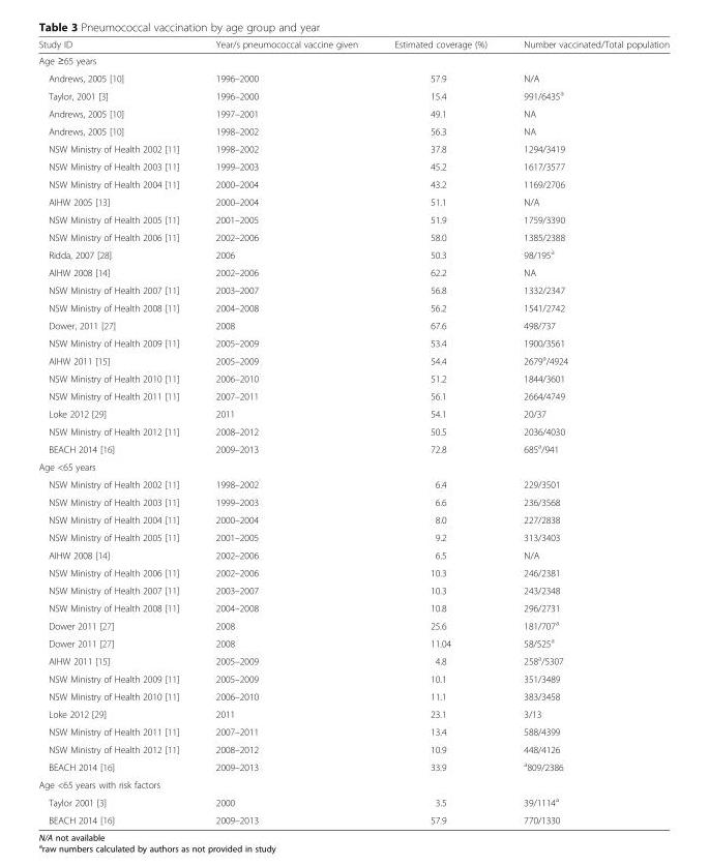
<table><thead><tr><td>Study ID</td><td>Year/s pneumococcal vaccine given</td><td>Estimated coverage (%)</td><td>Number vaccinated/Total population</td></tr></thead><tbody><tr><td colspan="4">Age ≥65 years</td></tr><tr><td>Andrews, 2005 [10]</td><td>1996–2000</td><td>57.9</td><td>N/A</td></tr><tr><td>Taylor, 2001 [3]</td><td>1996–2000</td><td>15.4</td><td>991/6435<sup>a</sup></td></tr><tr><td>Andrews, 2005 [10]</td><td>1997–2001</td><td>49.1</td><td>NA</td></tr><tr><td>Andrews, 2005 [10]</td><td>1998–2002</td><td>56.3</td><td>NA</td></tr><tr><td>NSW Ministry of Health 2002 [11]</td><td>1998–2002</td><td>37.8</td><td>1294/3419</td></tr><tr><td>NSW Ministry of Health 2003 [11]</td><td>1999–2003</td><td>45.2</td><td>1617/3577</td></tr><tr><td>NSW Ministry of Health 2004 [11]</td><td>2000–2004</td><td>43.2</td><td>1169/2706</td></tr><tr><td>AIHW 2005 [13]</td><td>2000–2004</td><td>51.1</td><td>N/A</td></tr><tr><td>NSW Ministry of Health 2005 [11]</td><td>2001–2005</td><td>51.9</td><td>1759/3390</td></tr><tr><td>NSW Ministry of Health 2006 [11]</td><td>2002–2006</td><td>58.0</td><td>1385/2388</td></tr><tr><td>Ridda, 2007 [28]</td><td>2006</td><td>50.3</td><td>98/195<sup>a</sup></td></tr><tr><td>AIHW 2008 [14]</td><td>2002–2006</td><td>62.2</td><td>NA</td></tr><tr><td>NSW Ministry of Health 2007 [11]</td><td>2003–2007</td><td>56.8</td><td>1332/2347</td></tr><tr><td>NSW Ministry of Health 2008 [11]</td><td>2004–2008</td><td>56.2</td><td>1541/2742</td></tr><tr><td>Dower, 2011 [27]</td><td>2008</td><td>67.6</td><td>498/737</td></tr><tr><td>NSW Ministry of Health 2009 [11]</td><td>2005–2009</td><td>53.4</td><td>1900/3561</td></tr><tr><td>AIHW 2011 [15]</td><td>2005–2009</td><td>54.4</td><td>2679<sup>a</sup>/4924</td></tr><tr><td>NSW Ministry of Health 2010 [11]</td><td>2006–2010</td><td>51.2</td><td>1844/3601</td></tr><tr><td>NSW Ministry of Health 2011 [11]</td><td>2007–2011</td><td>56.1</td><td>2664/4749</td></tr><tr><td>Loke 2012 [29]</td><td>2011</td><td>54.1</td><td>20/37</td></tr><tr><td>NSW Ministry of Health 2012 [11]</td><td>2008–2012</td><td>50.5</td><td>2036/4030</td></tr><tr><td>BEACH 2014 [16]</td><td>2009–2013</td><td>72.8</td><td>685<sup>a</sup>/941</td></tr><tr><td colspan="4">Age &lt;65 years</td></tr><tr><td>NSW Ministry of Health 2002 [11]</td><td>1998–2002</td><td>6.4</td><td>229/3501</td></tr><tr><td>NSW Ministry of Health 2003 [11]</td><td>1999–2003</td><td>6.6</td><td>236/3568</td></tr><tr><td>NSW Ministry of Health 2004 [11]</td><td>2000–2004</td><td>8.0</td><td>227/2838</td></tr><tr><td>NSW Ministry of Health 2005 [11]</td><td>2001–2005</td><td>9.2</td><td>313/3403</td></tr><tr><td>AIHW 2008 [14]</td><td>2002–2006</td><td>6.5</td><td>N/A</td></tr><tr><td>NSW Ministry of Health 2006 [11]</td><td>2002–2006</td><td>10.3</td><td>246/2381</td></tr><tr><td>NSW Ministry of Health 2007 [11]</td><td>2003–2007</td><td>10.3</td><td>243/2348</td></tr><tr><td>NSW Ministry of Health 2008 [11]</td><td>2004–2008</td><td>10.8</td><td>296/2731</td></tr><tr><td>Dower 2011 [27]</td><td>2008</td><td>25.6</td><td>181/707<sup>a</sup></td></tr><tr><td>Dower 2011 [27]</td><td>2008</td><td>11.04</td><td>58/525<sup>a</sup></td></tr><tr><td>AIHW 2011 [15]</td><td>2005–2009</td><td>4.8</td><td>258<sup>a</sup>/5307</td></tr><tr><td>NSW Ministry of Health 2009 [11]</td><td>2005–2009</td><td>10.1</td><td>351/3489</td></tr><tr><td>NSW Ministry of Health 2010 [11]</td><td>2006–2010</td><td>11.1</td><td>383/3458</td></tr><tr><td>Loke 2012 [29]</td><td>2011</td><td>23.1</td><td>3/13</td></tr><tr><td>NSW Ministry of Health 2011 [11]</td><td>2007–2011</td><td>13.4</td><td>588/4399</td></tr><tr><td>NSW Ministry of Health 2012 [11]</td><td>2008–2012</td><td>10.9</td><td>448/4126</td></tr><tr><td>BEACH 2014 [16]</td><td>2009–2013</td><td>33.9</td><td><sup>a</sup>809/2386</td></tr><tr><td colspan="4">Age &lt;65 years with risk factors</td></tr><tr><td>Taylor 2001 [3]</td><td>2000</td><td>3.5</td><td>39/1114<sup>a</sup></td></tr><tr><td>BEACH 2014 [16]</td><td>2009–2013</td><td>57.9</td><td>770/1330</td></tr></tbody></table>